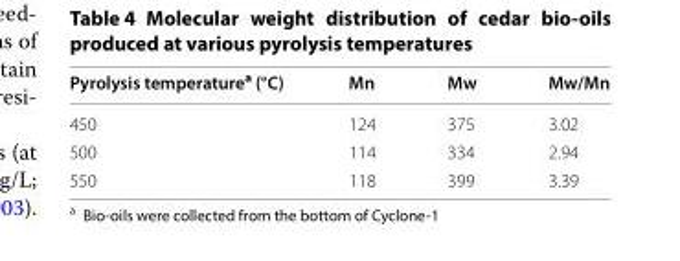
<table><thead><tr><td>Pyrolysis temperature<sup>a</sup> (°C)</td><td>Mn</td><td>Mw</td><td>Mw/Mn</td></tr></thead><tbody><tr><td>450</td><td>124</td><td>375</td><td>3.02</td></tr><tr><td>500</td><td>114</td><td>334</td><td>2.94</td></tr><tr><td>550</td><td>118</td><td>399</td><td>3.39</td></tr></tbody></table>